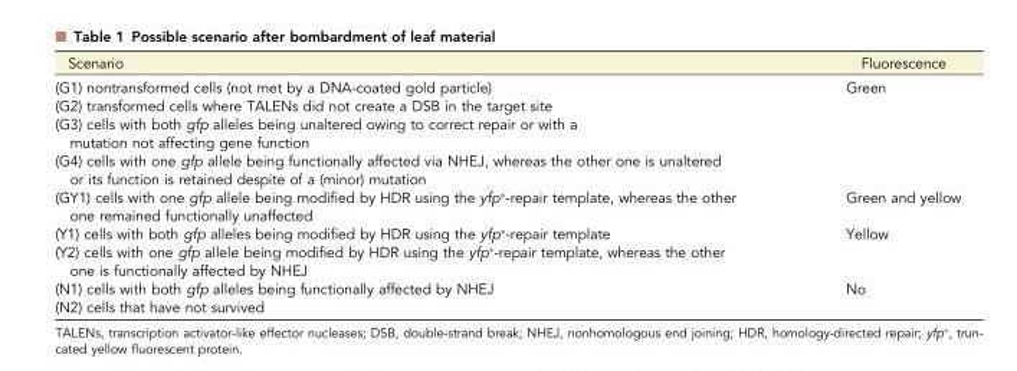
<table><thead><tr><td>Scenario</td><td>Fluorescence</td></tr></thead><tbody><tr><td>(G1) nontransformed cells (not met by a DNA-coated gold particle)</td><td rowspan="4">Green</td></tr><tr><td>(G2) transformed cells where TALENs did not create a DSB in the target site</td></tr><tr><td>(G3) cells with both gfp alleles being unaltered owing to correct repair or with a mutation not affecting gene function</td></tr><tr><td>(G4) cells with one gfp allele being functionally affected via NHEJ, whereas the other one is unaltered or its function is retained despite of a (minor) mutation</td></tr><tr><td>(GY1) cells with one gfp allele being modified by HDR using the yfp*-repair template, whereas the other one remained functionally unaffected</td><td>Green and yellow</td></tr><tr><td>(Y1) cells with both gfp alleles being modified by HDR using the yfp*-repair template</td><td rowspan="2">Yellow</td></tr><tr><td>(Y2) cells with one gfp allele being modified by HDR using the yfp*-repair template, whereas the other one is functionally affected by NHEJ</td></tr><tr><td>(N1) cells with both gfp alleles being functionally affected by NHEJ</td><td rowspan="2">No</td></tr><tr><td>(N2) cells that have not survived</td></tr></tbody></table>